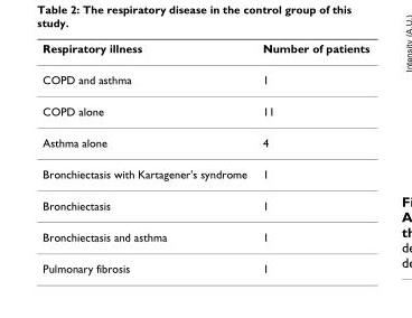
<table><thead><tr><td>Respiratory illness</td><td>Number of patients</td></tr></thead><tbody><tr><td>COPD and asthma</td><td>1</td></tr><tr><td>COPD alone</td><td>11</td></tr><tr><td>Asthma alone</td><td>4</td></tr><tr><td>Bronchiectasis with Kartagener&#x27;s syndrome</td><td>1</td></tr><tr><td>Bronchiectasis</td><td>1</td></tr><tr><td>Bronchiectasis and asthma</td><td>1</td></tr><tr><td>Pulmonary fibrosis</td><td>1</td></tr></tbody></table>